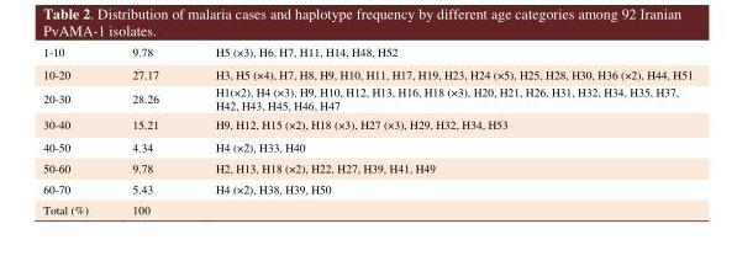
<table><tbody><tr><td>1-10</td><td>9.78</td><td>H5 (×3), H6, H7, H11, H14, H48, H52</td></tr><tr><td>10-20</td><td>27.17</td><td>H3, H5 (×4), H7, H8, H9, H10, H11, H17, H19, H23, H24 (×5), H25, H28, H30, H36 (×2), H44, H51</td></tr><tr><td>20-30</td><td>28.26</td><td>H1(×2), H4 (×3), H9, H10, H12, H13, H16, H18 (×3), H20, H21, H26, H31, H32, H34, H35, H37, H42, H43, H45, H46, H47</td></tr><tr><td>30-40</td><td>15.21</td><td>H9, H12, H15 (×2), H18 (×3), H27 (×3), H29, H32, H34, H53</td></tr><tr><td>40-50</td><td>4.34</td><td>H4 (×2), H33, H40</td></tr><tr><td>50-60</td><td>9.78</td><td>H2, H13, H18 (×2), H22, H27, H39, H41, H49</td></tr><tr><td>60-70</td><td>5.43</td><td>H4 (×2), H38, H39, H50</td></tr><tr><td>Total (%)</td><td>100</td><td></td></tr></tbody></table>